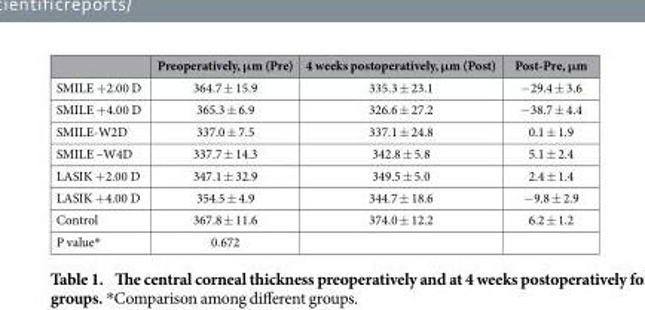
<table><thead><tr><td></td><td>Preoperatively, μm (Pre)</td><td>4 weeks postoperatively, μm (Post)</td><td>Post-Pre, μm</td></tr></thead><tbody><tr><td>SMILE +2.00 D</td><td>364.7 ± 15.9</td><td>335.3 ± 23.1</td><td>− 29.4 ± 3.6</td></tr><tr><td>SMILE +4.00 D</td><td>365.3 ± 6.9</td><td>326.6 ± 27.2</td><td>− 38.7 ± 4.4</td></tr><tr><td>SMILE-W2D</td><td>337.0 ± 7.5</td><td>337.1 ± 24.8</td><td>0.1 ± 1.9</td></tr><tr><td>SMILE –W4D</td><td>337.7 ± 14.3</td><td>342.8 ± 5.8</td><td>5.1 ± 2.4</td></tr><tr><td>LASIK +2.00 D</td><td>347.1 ± 32.9</td><td>349.5 ± 5.0</td><td>2.4 ± 1.4</td></tr><tr><td>LASIK +4.00 D</td><td>354.5 ± 4.9</td><td>344.7 ± 18.6</td><td>− 9.8 ± 2.9</td></tr><tr><td>Control</td><td>367.8 ± 11.6</td><td>374.0 ± 12.2</td><td>6.2 ± 1.2</td></tr><tr><td>P value*</td><td>0.672</td><td></td><td></td></tr></tbody></table>